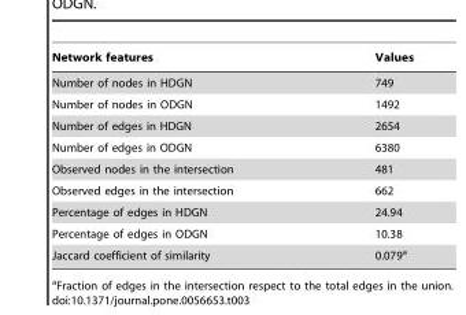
<table><thead><tr><td>Network features</td><td>Values</td></tr></thead><tbody><tr><td>Number of nodes in HDGN</td><td>749</td></tr><tr><td>Number of nodes in ODGN</td><td>1492</td></tr><tr><td>Number of edges in HDGN</td><td>2654</td></tr><tr><td>Number of edges in ODGN</td><td>6380</td></tr><tr><td>Observed nodes in the intersection</td><td>481</td></tr><tr><td>Observed edges in the intersection</td><td>662</td></tr><tr><td>Percentage of edges in HDGN</td><td>24.94</td></tr><tr><td>Percentage of edges in ODGN</td><td>10.38</td></tr><tr><td>Jaccard coefficient of similarity</td><td>0.079<sup>a</sup></td></tr></tbody></table>